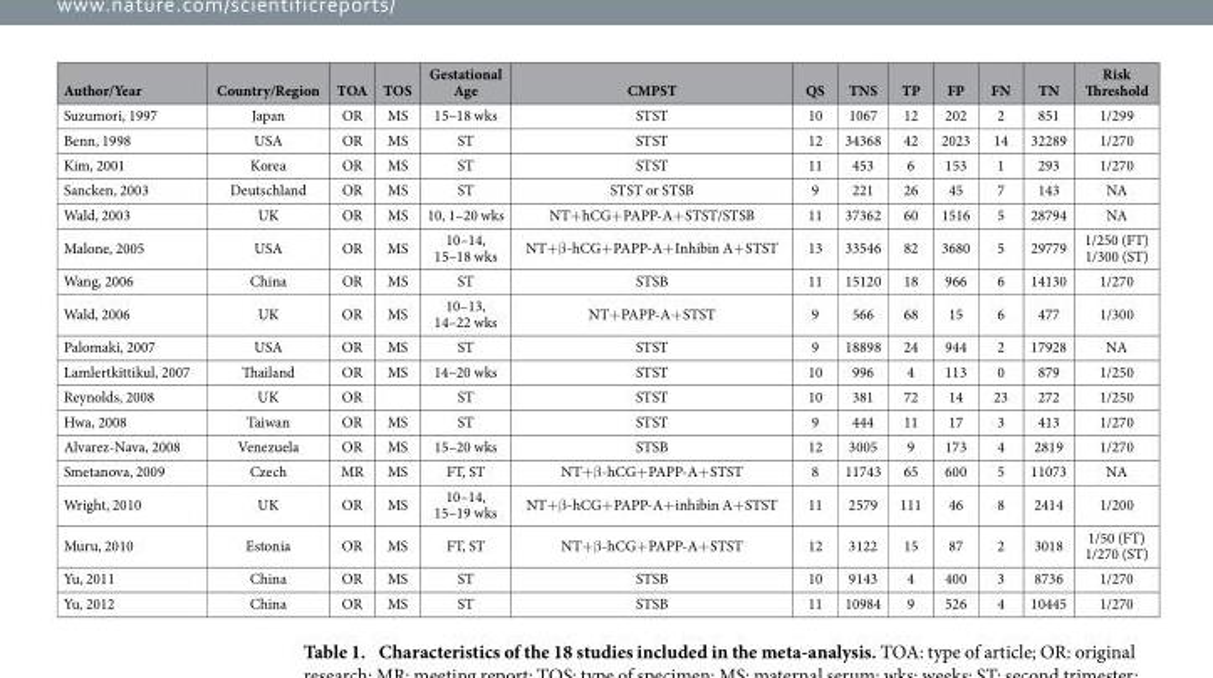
<table><thead><tr><td>Author/Year</td><td>Country/Region</td><td>TOA</td><td>TOS</td><td>Gestational Age</td><td>CMPST</td><td>QS</td><td>TNS</td><td>TP</td><td>FP</td><td>FN</td><td>TN</td><td>Risk Threshold</td></tr></thead><tbody><tr><td>Suzumori, 1997</td><td>Japan</td><td>OR</td><td>MS</td><td>15–18 wks</td><td>STST</td><td>10</td><td>1067</td><td>12</td><td>202</td><td>2</td><td>851</td><td>1/299</td></tr><tr><td>Benn, 1998</td><td>USA</td><td>OR</td><td>MS</td><td>ST</td><td>STST</td><td>12</td><td>34368</td><td>42</td><td>2023</td><td>14</td><td>32289</td><td>1/270</td></tr><tr><td>Kim, 2001</td><td>Korea</td><td>OR</td><td>MS</td><td>ST</td><td>STST</td><td>11</td><td>453</td><td>6</td><td>153</td><td>1</td><td>293</td><td>1/270</td></tr><tr><td>Sancken, 2003</td><td>Deutschland</td><td>OR</td><td>MS</td><td>ST</td><td>STST or STSB</td><td>9</td><td>221</td><td>26</td><td>45</td><td>7</td><td>143</td><td>NA</td></tr><tr><td>Wald, 2003</td><td>UK</td><td>OR</td><td>MS</td><td>10, 1–20 wks</td><td>NT+ hCG+ PAPP-A+ STST/STSB</td><td>11</td><td>37362</td><td>60</td><td>1516</td><td>5</td><td>28794</td><td>NA</td></tr><tr><td>Malone, 2005</td><td>USA</td><td>OR</td><td>MS</td><td>10–14, 15–18 wks</td><td>NT+ β -hCG+ PAPP-A+ Inhibin A+ STST</td><td>13</td><td>33546</td><td>82</td><td>3680</td><td>5</td><td>29779</td><td>1/250 (FT) 1/300 (ST)</td></tr><tr><td>Wang, 2006</td><td>China</td><td>OR</td><td>MS</td><td>ST</td><td>STSB</td><td>11</td><td>15120</td><td>18</td><td>966</td><td>6</td><td>14130</td><td>1/270</td></tr><tr><td>Wald, 2006</td><td>UK</td><td>OR</td><td>MS</td><td>10–13, 14–22 wks</td><td>NT+ PAPP-A+ STST</td><td>9</td><td>566</td><td>68</td><td>15</td><td>6</td><td>477</td><td>1/300</td></tr><tr><td>Palomaki, 2007</td><td>USA</td><td>OR</td><td>MS</td><td>ST</td><td>STST</td><td>9</td><td>18898</td><td>24</td><td>944</td><td>2</td><td>17928</td><td>NA</td></tr><tr><td>Lamlertkittikul, 2007</td><td>Thailand</td><td>OR</td><td>MS</td><td>14–20 wks</td><td>STST</td><td>10</td><td>996</td><td>4</td><td>113</td><td>0</td><td>879</td><td>1/250</td></tr><tr><td>Reynolds, 2008</td><td>UK</td><td>OR</td><td></td><td>ST</td><td>STST</td><td>10</td><td>381</td><td>72</td><td>14</td><td>23</td><td>272</td><td>1/250</td></tr><tr><td>Hwa, 2008</td><td>Taiwan</td><td>OR</td><td>MS</td><td>ST</td><td>STST</td><td>9</td><td>444</td><td>11</td><td>17</td><td>3</td><td>413</td><td>1/270</td></tr><tr><td>Alvarez-Nava, 2008</td><td>Venezuela</td><td>OR</td><td>MS</td><td>15–20 wks</td><td>STSB</td><td>12</td><td>3005</td><td>9</td><td>173</td><td>4</td><td>2819</td><td>1/270</td></tr><tr><td>Smetanova, 2009</td><td>Czech</td><td>MR</td><td>MS</td><td>FT, ST</td><td>NT+ β -hCG+ PAPP-A+ STST</td><td>8</td><td>11743</td><td>65</td><td>600</td><td>5</td><td>11073</td><td>NA</td></tr><tr><td>Wright, 2010</td><td>UK</td><td>OR</td><td>MS</td><td>10–14, 15–19 wks</td><td>NT+ β -hCG+ PAPP-A+ inhibin A+ STST</td><td>11</td><td>2579</td><td>111</td><td>46</td><td>8</td><td>2414</td><td>1/200</td></tr><tr><td>Muru, 2010</td><td>Estonia</td><td>OR</td><td>MS</td><td>FT, ST</td><td>NT+ β -hCG+ PAPP-A+ STST</td><td>12</td><td>3122</td><td>15</td><td>87</td><td>2</td><td>3018</td><td>1/50 (FT) 1/270 (ST)</td></tr><tr><td>Yu, 2011</td><td>China</td><td>OR</td><td>MS</td><td>ST</td><td>STSB</td><td>10</td><td>9143</td><td>4</td><td>400</td><td>3</td><td>8736</td><td>1/270</td></tr><tr><td>Yu, 2012</td><td>China</td><td>OR</td><td>MS</td><td>ST</td><td>STSB</td><td>11</td><td>10984</td><td>9</td><td>526</td><td>4</td><td>10445</td><td>1/270</td></tr></tbody></table>